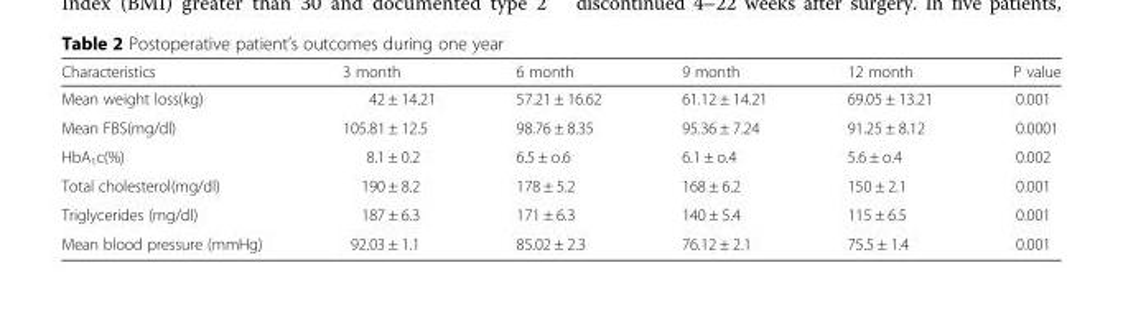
<table><thead><tr><td>Characteristics</td><td>3 month</td><td>6 month</td><td>9 month</td><td>12 month</td><td>P value</td></tr></thead><tbody><tr><td>Mean weight loss(kg)</td><td>42 ± 14.21</td><td>57.21 ± 16.62</td><td>61.12 ± 14.21</td><td>69.05 ± 13.21</td><td>0.001</td></tr><tr><td>Mean FBS(mg/dl)</td><td>105.81 ± 12.5</td><td>98.76 ± 8.35</td><td>95.36 ± 7.24</td><td>91.25 ± 8.12</td><td>0.0001</td></tr><tr><td>HbA<sub>1</sub>c(%)</td><td>8.1 ± 0.2</td><td>6.5 ± o.6</td><td>6.1 ± o.4</td><td>5.6 ± o.4</td><td>0.002</td></tr><tr><td>Total cholesterol(mg/dl)</td><td>190 ± 8.2</td><td>178 ± 5.2</td><td>168 ± 6.2</td><td>150 ± 2.1</td><td>0.001</td></tr><tr><td>Triglycerides (mg/dl)</td><td>187 ± 6.3</td><td>171 ± 6.3</td><td>140 ± 5.4</td><td>115 ± 6.5</td><td>0.001</td></tr><tr><td>Mean blood pressure (mmHg)</td><td>92.03 ± 1.1</td><td>85.02 ± 2.3</td><td>76.12 ± 2.1</td><td>75.5 ± 1.4</td><td>0.001</td></tr></tbody></table>